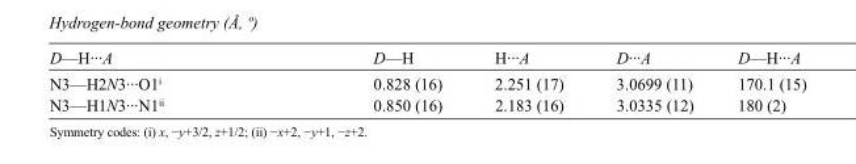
<table><tbody><tr><td>D—H···A</td><td>D—H</td><td>H···A</td><td>D···A</td><td>D—H···A</td></tr><tr><td>N3—H2N3···O1<sup>i</sup></td><td>0.828 (16)</td><td>2.251 (17)</td><td>3.0699 (11)</td><td>170.1 (15)</td></tr><tr><td>N3—H1N3···N1<sup>ii</sup></td><td>0.850 (16)</td><td>2.183 (16)</td><td>3.0335 (12)</td><td>180 (2)</td></tr></tbody></table>